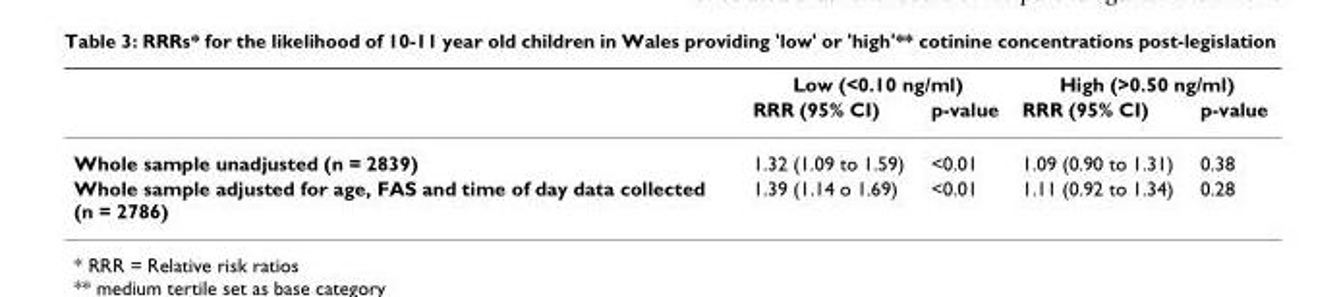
<table><thead><tr><td rowspan="2"></td><td colspan="2">Low (&lt;0.10 ng/ml)</td><td colspan="2">High (&gt;0.50 ng/ml)</td></tr><tr><td>RRR (95% CI)</td><td>p-value</td><td>RRR (95% CI)</td><td>p-value</td></tr></thead><tbody><tr><td>Whole sample unadjusted (n = 2839)</td><td>1.32 (1.09 to 1.59)</td><td>&lt;0.01</td><td>1.09 (0.90 to 1.31)</td><td>0.38</td></tr><tr><td>Whole sample adjusted for age, FAS and time of day data collected (n = 2786)</td><td>1.39 (1.14 o 1.69)</td><td>&lt;0.01</td><td>1.11 (0.92 to 1.34)</td><td>0.28</td></tr></tbody></table>